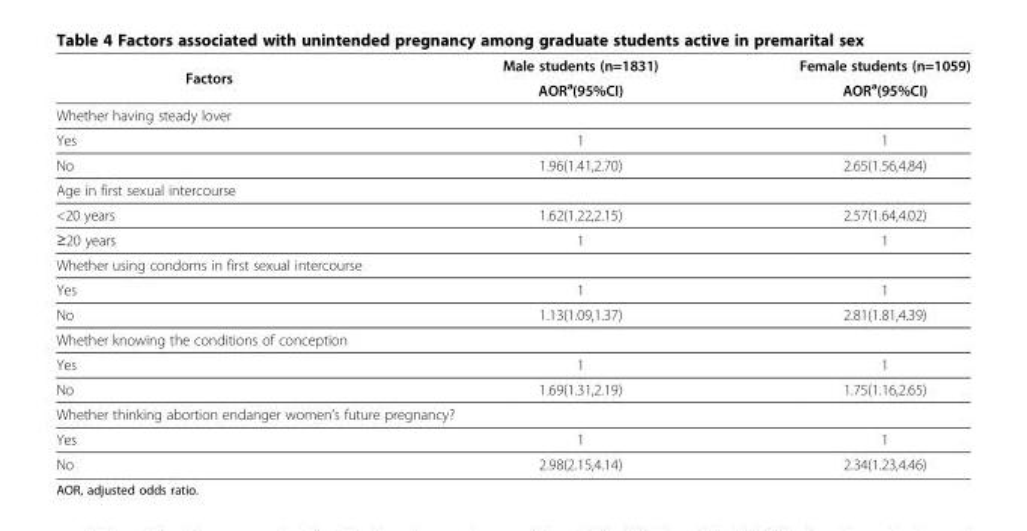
<table><thead><tr><td rowspan="2">Factors</td><td rowspan="2">Male students (n=1831) AOR<sup>a</sup>(95%CI)</td><td rowspan="2">Female students (n=1059) AOR<sup>a</sup>(95%CI)</td></tr><tr></tr></thead><tbody><tr><td colspan="3">Whether having steady lover</td></tr><tr><td>Yes</td><td>1</td><td>1</td></tr><tr><td>No</td><td>1.96(1.41,2.70)</td><td>2.65(1.56,4.84)</td></tr><tr><td colspan="3">Age in first sexual intercourse</td></tr><tr><td>&lt;20 years</td><td>1.62(1.22,2.15)</td><td>2.57(1.64,4.02)</td></tr><tr><td>≥20 years</td><td>1</td><td>1</td></tr><tr><td colspan="3">Whether using condoms in first sexual intercourse</td></tr><tr><td>Yes</td><td>1</td><td>1</td></tr><tr><td>No</td><td>1.13(1.09,1.37)</td><td>2.81(1.81,4.39)</td></tr><tr><td colspan="3">Whether knowing the conditions of conception</td></tr><tr><td>Yes</td><td>1</td><td>1</td></tr><tr><td>No</td><td>1.69(1.31,2.19)</td><td>1.75(1.16,2.65)</td></tr><tr><td colspan="3">Whether thinking abortion endanger women’s future pregnancy?</td></tr><tr><td>Yes</td><td>1</td><td>1</td></tr><tr><td>No</td><td>2.98(2.15,4.14)</td><td>2.34(1.23,4.46)</td></tr></tbody></table>